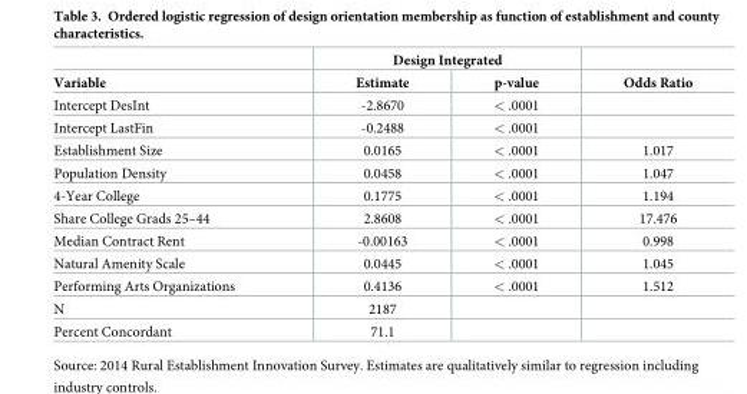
<table><thead><tr><td rowspan="2">Variable</td><td colspan="2">Design Integrated</td><td rowspan="2">Odds Ratio</td></tr><tr><td>Estimate</td><td>p-value</td></tr></thead><tbody><tr><td>Intercept DesInt</td><td>-2.8670</td><td>&lt; .0001</td><td></td></tr><tr><td>Intercept LastFin</td><td>-0.2488</td><td>&lt; .0001</td><td></td></tr><tr><td>Establishment Size</td><td>0.0165</td><td>&lt; .0001</td><td>1.017</td></tr><tr><td>Population Density</td><td>0.0458</td><td>&lt; .0001</td><td>1.047</td></tr><tr><td>4-Year College</td><td>0.1775</td><td>&lt; .0001</td><td>1.194</td></tr><tr><td>Share College Grads 25–44</td><td>2.8608</td><td>&lt; .0001</td><td>17.476</td></tr><tr><td>Median Contract Rent</td><td>-0.00163</td><td>&lt; .0001</td><td>0.998</td></tr><tr><td>Natural Amenity Scale</td><td>0.0445</td><td>&lt; .0001</td><td>1.045</td></tr><tr><td>Performing Arts Organizations</td><td>0.4136</td><td>&lt; .0001</td><td>1.512</td></tr><tr><td>N</td><td>2187</td><td></td><td></td></tr><tr><td>Percent Concordant</td><td>71.1</td><td></td><td></td></tr></tbody></table>